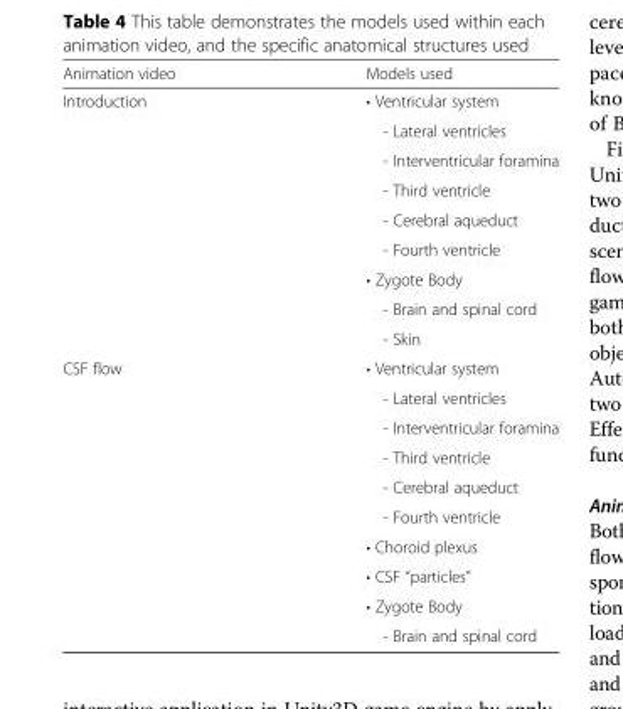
<table><thead><tr><td>Animation video</td><td>Models used</td></tr></thead><tbody><tr><td rowspan="9">Introduction</td><td>• Ventricular system</td></tr><tr><td>- Lateral ventricles</td></tr><tr><td>- Interventricular foramina</td></tr><tr><td>- Third ventricle</td></tr><tr><td>- Cerebral aqueduct</td></tr><tr><td>- Fourth ventricle</td></tr><tr><td>• Zygote Body</td></tr><tr><td>- Brain and spinal cord</td></tr><tr><td>- Skin</td></tr><tr><td rowspan="10">CSF flow</td><td>• Ventricular system</td></tr><tr><td>- Lateral ventricles</td></tr><tr><td>- Interventricular foramina</td></tr><tr><td>- Third ventricle</td></tr><tr><td>- Cerebral aqueduct</td></tr><tr><td>- Fourth ventricle</td></tr><tr><td>• Choroid plexus</td></tr><tr><td>• CSF “particles”</td></tr><tr><td>• Zygote Body</td></tr><tr><td>- Brain and spinal cord</td></tr></tbody></table>